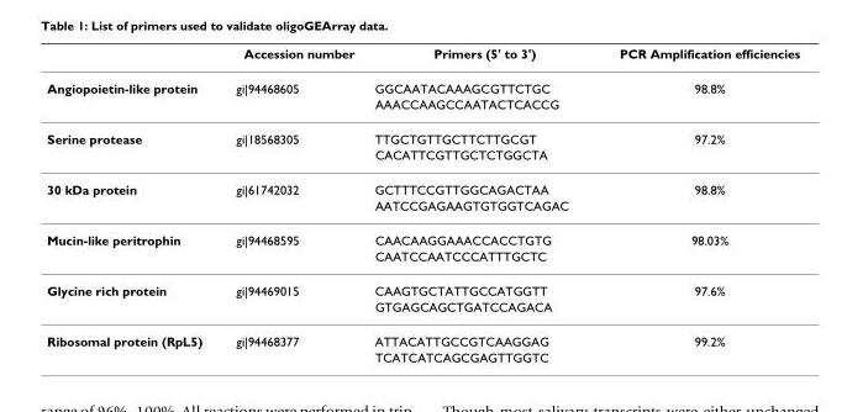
<table><thead><tr><td></td><td>Accession number</td><td>Primers (5&#x27; to 3&#x27;)</td><td>PCR Amplification efficiencies</td></tr></thead><tbody><tr><td rowspan="2">Angiopoietin-like protein</td><td>gi|94468605</td><td>GGCAATACAAAGCGTTCTGC</td><td>98.8%</td></tr><tr><td></td><td>AAACCAAGCCAATACTCACCG</td><td></td></tr><tr><td rowspan="2">Serine protease</td><td>gi|18568305</td><td>TTGCTGTTGCTTCTTGCGT</td><td>97.2%</td></tr><tr><td></td><td>CACATTCGTTGCTCTGGCTA</td><td></td></tr><tr><td rowspan="2">30 kDa protein</td><td>gi|61742032</td><td>GCTTTCCGTTGGCAGACTAA</td><td>98.8%</td></tr><tr><td></td><td>AATCCGAGAAGTGTGGTCAGAC</td><td></td></tr><tr><td rowspan="2">Mucin-like peritrophin</td><td>gi|94468595</td><td>CAACAAGGAAACCACCTGTG</td><td>98.03%</td></tr><tr><td></td><td>CAATCCAATCCCATTTGCTC</td><td></td></tr><tr><td rowspan="2">Glycine rich protein</td><td>gi|94469015</td><td>CAAGTGCTATTGCCATGGTT</td><td>97.6%</td></tr><tr><td></td><td>GTGAGCAGCTGATCCAGACA</td><td></td></tr><tr><td rowspan="2">Ribosomal protein (RpL5)</td><td>gi|94468377</td><td>ATTACATTGCCGTCAAGGAG</td><td>99.2%</td></tr><tr><td></td><td>TCATCATCAGCGAGTTGGTC</td><td></td></tr></tbody></table>